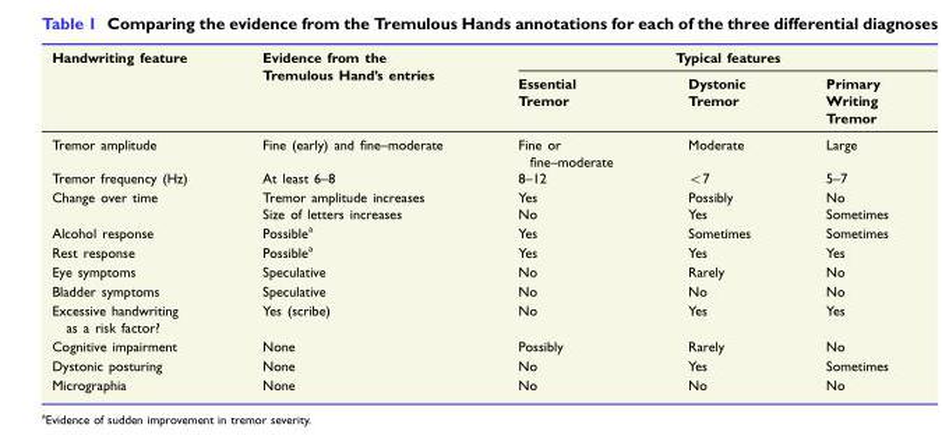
<table><thead><tr><td rowspan="2">Handwriting feature</td><td rowspan="2">Evidence from the Tremulous Hand’s entries</td><td colspan="3">Typical features</td></tr><tr><td>Essential Tremor</td><td>Dystonic Tremor</td><td>Primary Writing Tremor</td></tr></thead><tbody><tr><td>Tremor amplitude</td><td>Fine (early) and fine–moderate</td><td>Fine or fine–moderate</td><td>Moderate</td><td>Large</td></tr><tr><td>Tremor frequency (Hz)</td><td>At least 6–8</td><td>8–12</td><td>&lt;7</td><td>5–7</td></tr><tr><td rowspan="2">Change over time</td><td>Tremor amplitude increases</td><td>Yes</td><td>Possibly</td><td>No</td></tr><tr><td>Size of letters increases</td><td>No</td><td>Yes</td><td>Sometimes</td></tr><tr><td>Alcohol response</td><td>Possible<sup>a</sup></td><td>Yes</td><td>Sometimes</td><td>Sometimes</td></tr><tr><td>Rest response</td><td>Possible<sup>a</sup></td><td>Yes</td><td>Yes</td><td>Yes</td></tr><tr><td>Eye symptoms</td><td>Speculative</td><td>No</td><td>Rarely</td><td>No</td></tr><tr><td>Bladder symptoms</td><td>Speculative</td><td>No</td><td>No</td><td>No</td></tr><tr><td>Excessive handwriting as a risk factor?</td><td>Yes (scribe)</td><td>No</td><td>Yes</td><td>Yes</td></tr><tr><td>Cognitive impairment</td><td>None</td><td>Possibly</td><td>Rarely</td><td>No</td></tr><tr><td>Dystonic posturing</td><td>None</td><td>No</td><td>Yes</td><td>Sometimes</td></tr><tr><td>Micrographia</td><td>None</td><td>No</td><td>No</td><td>No</td></tr></tbody></table>